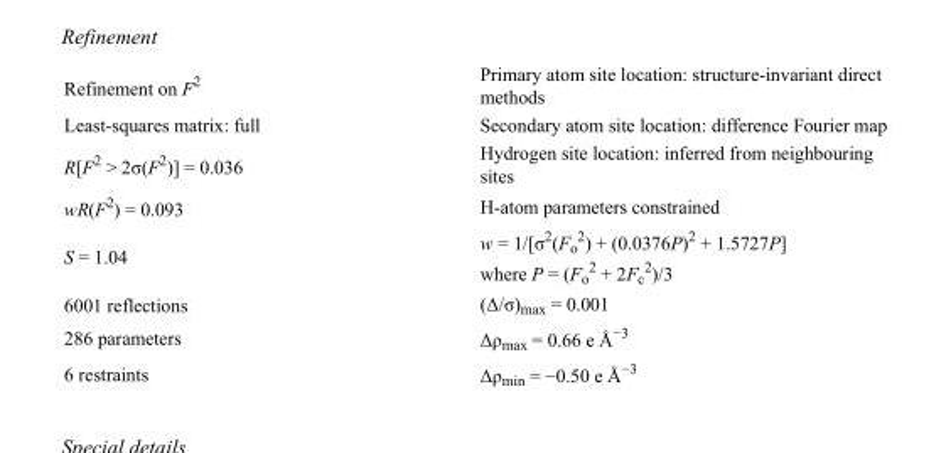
<table><tbody><tr><td>Refinement on F<sup>2</sup></td><td>Primary atom site location: structure-invariant direct methods</td></tr><tr><td>Least-squares matrix: full</td><td>Secondary atom site location: difference Fourier map</td></tr><tr><td>R[F<sup>2</sup> &gt; 2σ(F<sup>2</sup>)] = 0.036</td><td>Hydrogen site location: inferred from neighbouring sites</td></tr><tr><td>wR(F<sup>2</sup>) = 0.093</td><td>H-atom parameters constrained</td></tr><tr><td>S = 1.04</td><td>w = 1/[σ<sup>2</sup>(F<sub>o</sub> <sup>2</sup>) + (0.0376P)<sup>2</sup> + 1.5727P] where P = (F<sub>o</sub> <sup>2</sup> + 2F<sub>c</sub> <sup>2</sup>)/3</td></tr><tr><td>6001 reflections</td><td>(Δ/σ)<sub>max</sub> = 0.001</td></tr><tr><td>286 parameters</td><td>Δρ<sub>max</sub> = 0.66 e Å<sup>−3</sup></td></tr><tr><td>6 restraints</td><td>Δρ<sub>min</sub> = −0.50 e Å<sup>−3</sup></td></tr></tbody></table>